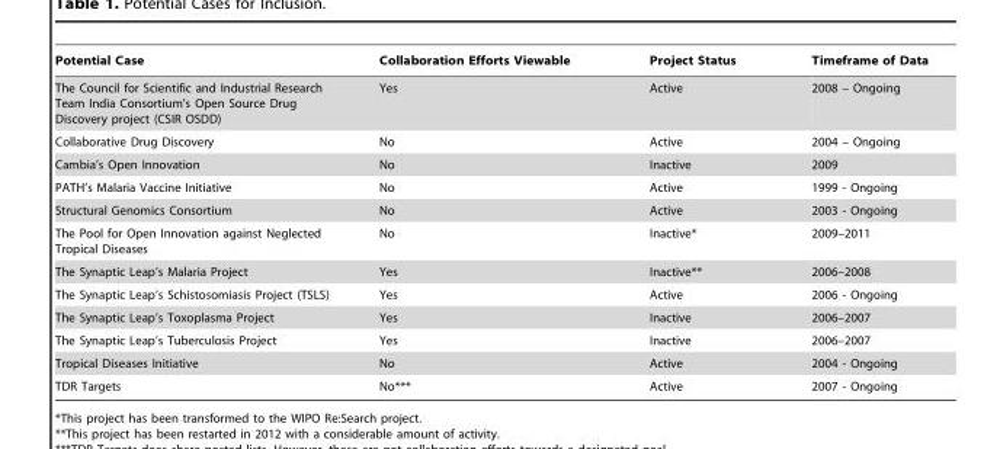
<table><thead><tr><td>Potential Case</td><td>Collaboration Efforts Viewable</td><td>Project Status</td><td>Timeframe of Data</td></tr></thead><tbody><tr><td>The Council for Scientific and Industrial Research Team India Consortium’s Open Source Drug Discovery project (CSIR OSDD)</td><td>Yes</td><td>Active</td><td>2008 – Ongoing</td></tr><tr><td>Collaborative Drug Discovery</td><td>No</td><td>Active</td><td>2004 – Ongoing</td></tr><tr><td>Cambia’s Open Innovation</td><td>No</td><td>Inactive</td><td>2009</td></tr><tr><td>PATH’s Malaria Vaccine Initiative</td><td>No</td><td>Active</td><td>1999 - Ongoing</td></tr><tr><td>Structural Genomics Consortium</td><td>No</td><td>Active</td><td>2003 - Ongoing</td></tr><tr><td>The Pool for Open Innovation against Neglected Tropical Diseases</td><td>No</td><td>Inactive*</td><td>2009–2011</td></tr><tr><td>The Synaptic Leap’s Malaria Project</td><td>Yes</td><td>Inactive**</td><td>2006–2008</td></tr><tr><td>The Synaptic Leap’s Schistosomiasis Project (TSLS)</td><td>Yes</td><td>Active</td><td>2006 - Ongoing</td></tr><tr><td>The Synaptic Leap’s Toxoplasma Project</td><td>Yes</td><td>Inactive</td><td>2006–2007</td></tr><tr><td>The Synaptic Leap’s Tuberculosis Project</td><td>Yes</td><td>Inactive</td><td>2006–2007</td></tr><tr><td>Tropical Diseases Initiative</td><td>No</td><td>Active</td><td>2004 - Ongoing</td></tr><tr><td>TDR Targets</td><td>No***</td><td>Active</td><td>2007 - Ongoing</td></tr></tbody></table>